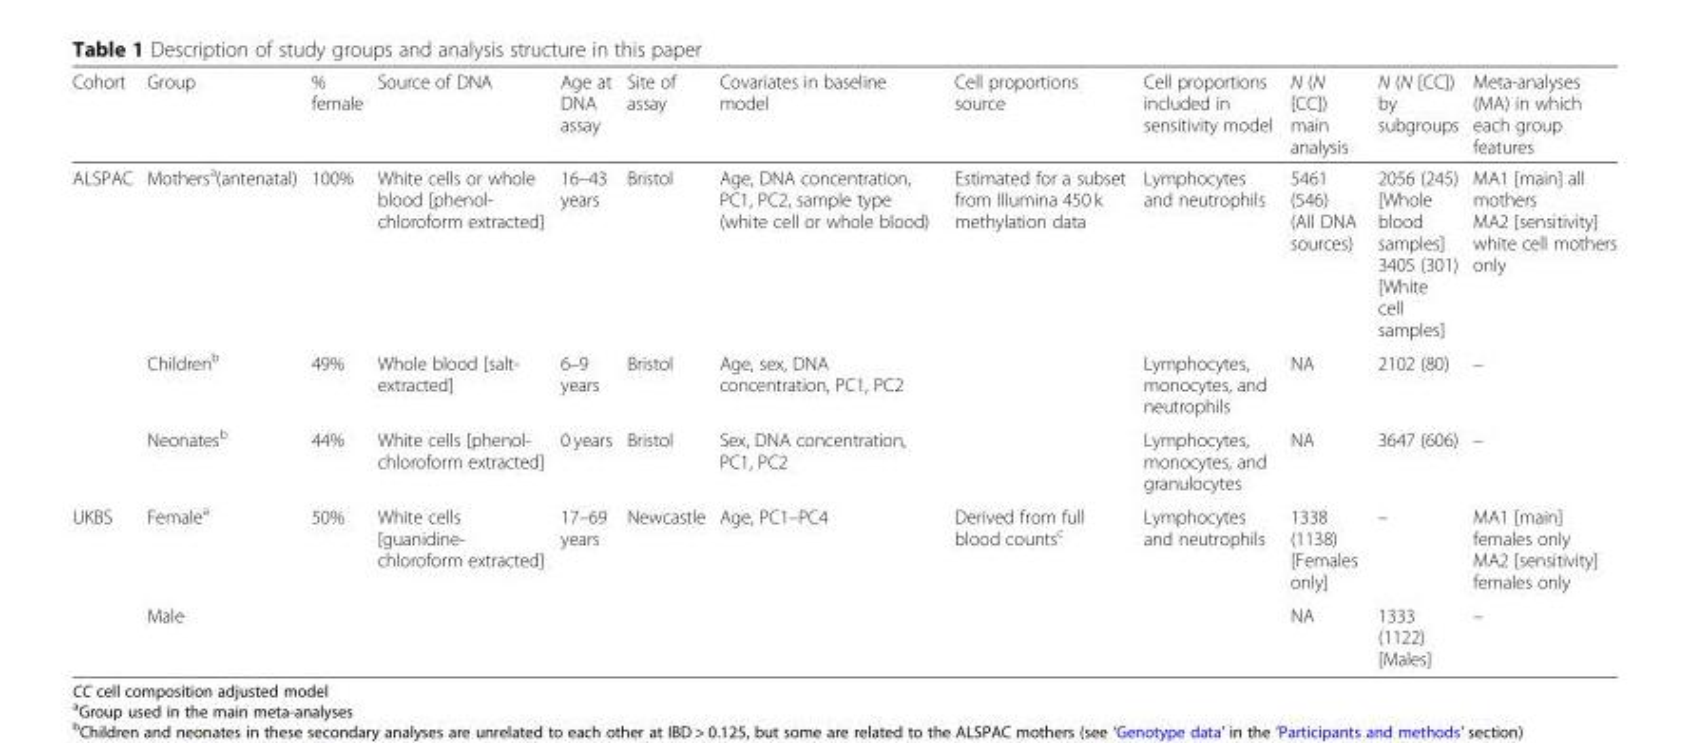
<table><thead><tr><td>Cohort</td><td>Group</td><td>% female</td><td>Source of DNA</td><td>Age at DNA assay</td><td>Site of assay</td><td>Covariates in baseline model</td><td>Cell proportions source</td><td>Cell proportions included in sensitivity model</td><td>N (N [CC]) main analysis</td><td>N (N [CC]) by subgroups</td><td>Meta-analyses (MA) in which each group features</td></tr></thead><tbody><tr><td rowspan="3">ALSPAC</td><td>Mothers<sup>a</sup>(antenatal)</td><td>100%</td><td>White cells or whole blood [phenol- chloroform extracted]</td><td>16–43 years</td><td>Bristol</td><td>Age, DNA concentration, PC1, PC2, sample type (white cell or whole blood)</td><td rowspan="3">Estimated for a subset from Illumina 450 k methylation data</td><td>Lymphocytes and neutrophils</td><td>5461 (546) (All DNA sources)</td><td>2056 (245) [Whole blood samples] 3405 (301) [White cell samples]</td><td>MA1 [main] all mothers MA2 [sensitivity] white cell mothers only</td></tr><tr><td>Children<sup>b</sup></td><td>49%</td><td>Whole blood [salt- extracted]</td><td>6–9 years</td><td>Bristol</td><td>Age, sex, DNA concentration, PC1, PC2</td><td>Lymphocytes, monocytes, and neutrophils</td><td>NA</td><td>2102 (80)</td><td>–</td></tr><tr><td>Neonates<sup>b</sup></td><td>44%</td><td>White cells [phenol- chloroform extracted]</td><td>0 years</td><td>Bristol</td><td>Sex, DNA concentration, PC1, PC2</td><td>Lymphocytes, monocytes, and granulocytes</td><td>NA</td><td>3647 (606)</td><td>–</td></tr><tr><td rowspan="2">UKBS</td><td>Female<sup>a</sup></td><td rowspan="2">50%</td><td rowspan="2">White cells [guanidine- chloroform extracted]</td><td rowspan="2">17–69 years</td><td rowspan="2">Newcastle</td><td rowspan="2">Age, PC1–PC4</td><td rowspan="2">Derived from full blood counts<sup>c</sup></td><td rowspan="2">Lymphocytes and neutrophils</td><td>1338 (1138) [Females only]</td><td>–</td><td>MA1 [main] females only MA2 [sensitivity] females only</td></tr><tr><td>Male</td><td>NA</td><td>1333 (1122) [Males]</td><td>–</td></tr></tbody></table>